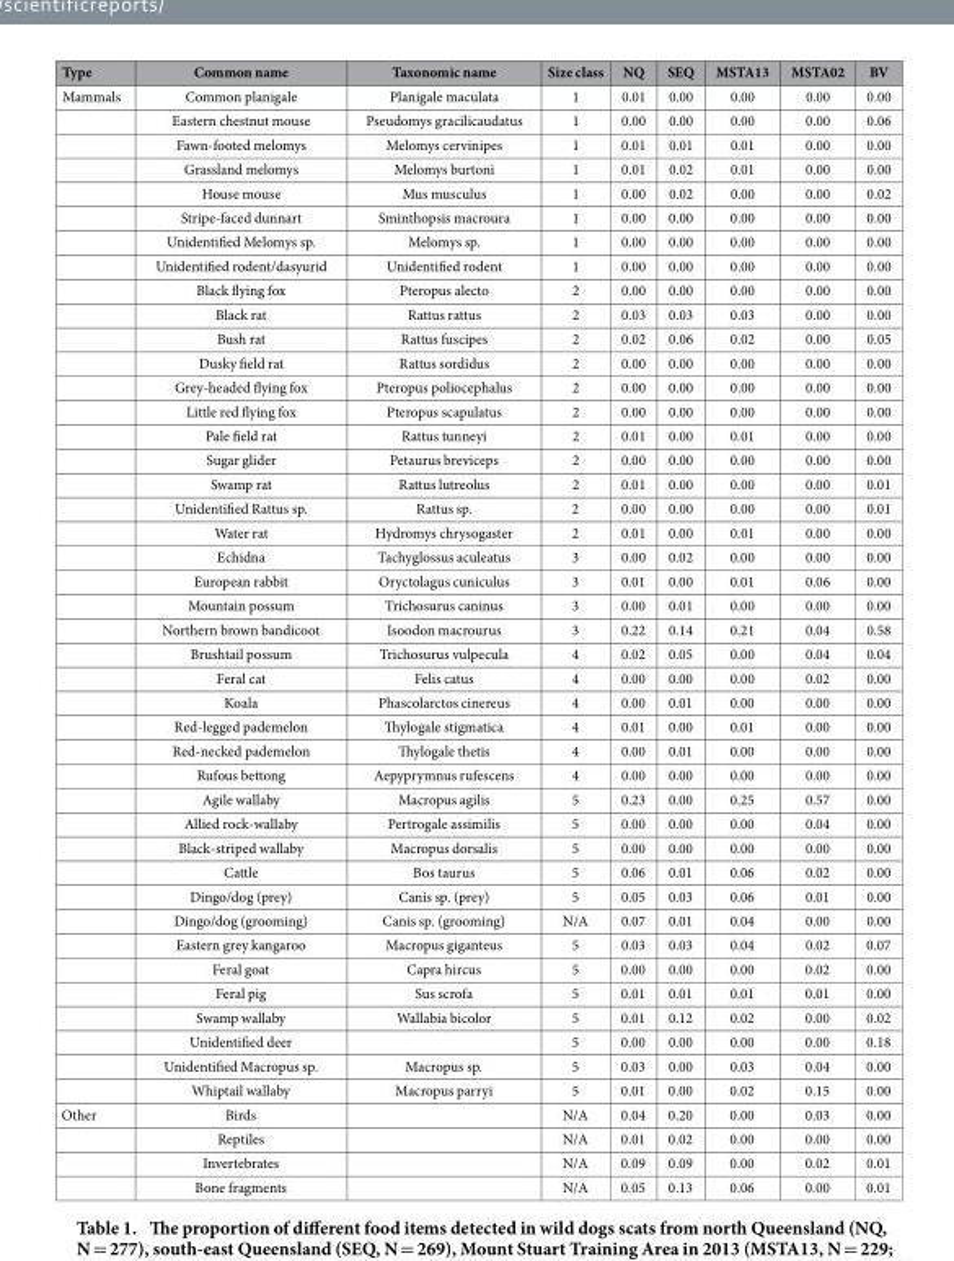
<table><thead><tr><td>Type</td><td>Common name</td><td>Taxonomic name</td><td>Size class</td><td>NQ</td><td>SEQ</td><td>MSTA13</td><td>MSTA02</td><td>BV</td></tr></thead><tbody><tr><td rowspan="42">Mammals</td><td>Common planigale</td><td>Planigale maculata</td><td>1</td><td>0.01</td><td>0.00</td><td>0.00</td><td>0.00</td><td>0.00</td></tr><tr><td>Eastern chestnut mouse</td><td>Pseudomys gracilicaudatus</td><td>1</td><td>0.00</td><td>0.00</td><td>0.00</td><td>0.00</td><td>0.06</td></tr><tr><td>Fawn-footed melomys</td><td>Melomys cervinipes</td><td>1</td><td>0.01</td><td>0.01</td><td>0.01</td><td>0.00</td><td>0.00</td></tr><tr><td>Grassland melomys</td><td>Melomys burtoni</td><td>1</td><td>0.01</td><td>0.02</td><td>0.01</td><td>0.00</td><td>0.00</td></tr><tr><td>House mouse</td><td>Mus musculus</td><td>1</td><td>0.00</td><td>0.02</td><td>0.00</td><td>0.00</td><td>0.02</td></tr><tr><td>Stripe-faced dunnart</td><td>Sminthopsis macroura</td><td>1</td><td>0.00</td><td>0.00</td><td>0.00</td><td>0.00</td><td>0.00</td></tr><tr><td>Unidentified Melomys sp.</td><td>Melomys sp.</td><td>1</td><td>0.00</td><td>0.00</td><td>0.00</td><td>0.00</td><td>0.00</td></tr><tr><td>Unidentified rodent/dasyurid</td><td>Unidentified rodent</td><td>1</td><td>0.00</td><td>0.00</td><td>0.00</td><td>0.00</td><td>0.00</td></tr><tr><td>Black flying fox</td><td>Pteropus alecto</td><td>2</td><td>0.00</td><td>0.00</td><td>0.00</td><td>0.00</td><td>0.00</td></tr><tr><td>Black rat</td><td>Rattus rattus</td><td>2</td><td>0.03</td><td>0.03</td><td>0.03</td><td>0.00</td><td>0.00</td></tr><tr><td>Bush rat</td><td>Rattus fuscipes</td><td>2</td><td>0.02</td><td>0.06</td><td>0.02</td><td>0.00</td><td>0.05</td></tr><tr><td>Dusky field rat</td><td>Rattus sordidus</td><td>2</td><td>0.00</td><td>0.00</td><td>0.00</td><td>0.00</td><td>0.00</td></tr><tr><td>Grey-headed flying fox</td><td>Pteropus poliocephalus</td><td>2</td><td>0.00</td><td>0.00</td><td>0.00</td><td>0.00</td><td>0.00</td></tr><tr><td>Little red flying fox</td><td>Pteropus scapulatus</td><td>2</td><td>0.00</td><td>0.00</td><td>0.00</td><td>0.00</td><td>0.00</td></tr><tr><td>Pale field rat</td><td>Rattus tunneyi</td><td>2</td><td>0.01</td><td>0.00</td><td>0.01</td><td>0.00</td><td>0.00</td></tr><tr><td>Sugar glider</td><td>Petaurus breviceps</td><td>2</td><td>0.00</td><td>0.00</td><td>0.00</td><td>0.00</td><td>0.00</td></tr><tr><td>Swamp rat</td><td>Rattus lutreolus</td><td>2</td><td>0.01</td><td>0.00</td><td>0.00</td><td>0.00</td><td>0.01</td></tr><tr><td>Unidentified Rattus sp.</td><td>Rattus sp.</td><td>2</td><td>0.00</td><td>0.00</td><td>0.00</td><td>0.00</td><td>0.01</td></tr><tr><td>Water rat</td><td>Hydromys chrysogaster</td><td>2</td><td>0.01</td><td>0.00</td><td>0.01</td><td>0.00</td><td>0.00</td></tr><tr><td>Echidna</td><td>Tachyglossus aculeatus</td><td>3</td><td>0.00</td><td>0.02</td><td>0.00</td><td>0.00</td><td>0.00</td></tr><tr><td>European rabbit</td><td>Oryctolagus cuniculus</td><td>3</td><td>0.01</td><td>0.00</td><td>0.01</td><td>0.06</td><td>0.00</td></tr><tr><td>Mountain possum</td><td>Trichosurus caninus</td><td>3</td><td>0.00</td><td>0.01</td><td>0.00</td><td>0.00</td><td>0.00</td></tr><tr><td>Northern brown bandicoot</td><td>Isoodon macrourus</td><td>3</td><td>0.22</td><td>0.14</td><td>0.21</td><td>0.04</td><td>0.58</td></tr><tr><td>Brushtail possum</td><td>Trichosurus vulpecula</td><td>4</td><td>0.02</td><td>0.05</td><td>0.00</td><td>0.04</td><td>0.04</td></tr><tr><td>Feral cat</td><td>Felis catus</td><td>4</td><td>0.00</td><td>0.00</td><td>0.00</td><td>0.02</td><td>0.00</td></tr><tr><td>Koala</td><td>Phascolarctos cinereus</td><td>4</td><td>0.00</td><td>0.01</td><td>0.00</td><td>0.00</td><td>0.00</td></tr><tr><td>Red-legged pademelon</td><td>Thylogale stigmatica</td><td>4</td><td>0.01</td><td>0.00</td><td>0.01</td><td>0.00</td><td>0.00</td></tr><tr><td>Red-necked pademelon</td><td>Thylogale thetis</td><td>4</td><td>0.00</td><td>0.01</td><td>0.00</td><td>0.00</td><td>0.00</td></tr><tr><td>Rufous bettong</td><td>Aepyprymnus rufescens</td><td>4</td><td>0.00</td><td>0.00</td><td>0.00</td><td>0.00</td><td>0.00</td></tr><tr><td>Agile wallaby</td><td>Macropus agilis</td><td>5</td><td>0.23</td><td>0.00</td><td>0.25</td><td>0.57</td><td>0.00</td></tr><tr><td>Allied rock-wallaby</td><td>Pertrogale assimilis</td><td>5</td><td>0.00</td><td>0.00</td><td>0.00</td><td>0.04</td><td>0.00</td></tr><tr><td>Black-striped wallaby</td><td>Macropus dorsalis</td><td>5</td><td>0.00</td><td>0.00</td><td>0.00</td><td>0.00</td><td>0.00</td></tr><tr><td>Cattle</td><td>Bos taurus</td><td>5</td><td>0.06</td><td>0.01</td><td>0.06</td><td>0.02</td><td>0.00</td></tr><tr><td>Dingo/dog (prey)</td><td>Canis sp. (prey)</td><td>5</td><td>0.05</td><td>0.03</td><td>0.06</td><td>0.01</td><td>0.00</td></tr><tr><td>Dingo/dog (grooming)</td><td>Canis sp. (grooming)</td><td>N/A</td><td>0.07</td><td>0.01</td><td>0.04</td><td>0.00</td><td>0.00</td></tr><tr><td>Eastern grey kangaroo</td><td>Macropus giganteus</td><td>5</td><td>0.03</td><td>0.03</td><td>0.04</td><td>0.02</td><td>0.07</td></tr><tr><td>Feral goat</td><td>Capra hircus</td><td>5</td><td>0.00</td><td>0.00</td><td>0.00</td><td>0.02</td><td>0.00</td></tr><tr><td>Feral pig</td><td>Sus scrofa</td><td>5</td><td>0.01</td><td>0.01</td><td>0.01</td><td>0.01</td><td>0.00</td></tr><tr><td>Swamp wallaby</td><td>Wallabia bicolor</td><td>5</td><td>0.01</td><td>0.12</td><td>0.02</td><td>0.00</td><td>0.02</td></tr><tr><td>Unidentified deer</td><td></td><td>5</td><td>0.00</td><td>0.00</td><td>0.00</td><td>0.00</td><td>0.18</td></tr><tr><td>Unidentified Macropus sp.</td><td>Macropus sp.</td><td>5</td><td>0.03</td><td>0.00</td><td>0.03</td><td>0.04</td><td>0.00</td></tr><tr><td>Whiptail wallaby</td><td>Macropus parryi</td><td>5</td><td>0.01</td><td>0.00</td><td>0.02</td><td>0.15</td><td>0.00</td></tr><tr><td rowspan="4">Other</td><td>Birds</td><td></td><td>N/A</td><td>0.04</td><td>0.20</td><td>0.00</td><td>0.03</td><td>0.00</td></tr><tr><td>Reptiles</td><td></td><td>N/A</td><td>0.01</td><td>0.02</td><td>0.00</td><td>0.00</td><td>0.00</td></tr><tr><td>Invertebrates</td><td></td><td>N/A</td><td>0.09</td><td>0.09</td><td>0.00</td><td>0.02</td><td>0.01</td></tr><tr><td>Bone fragments</td><td></td><td>N/A</td><td>0.05</td><td>0.13</td><td>0.06</td><td>0.00</td><td>0.01</td></tr></tbody></table>